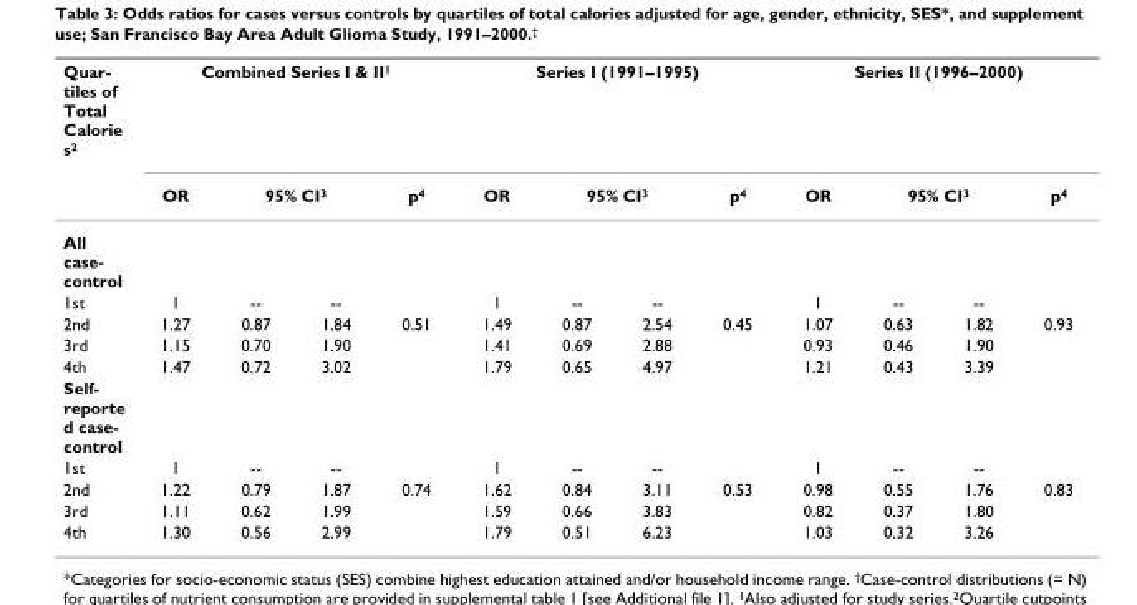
<table><thead><tr><td rowspan="3">Quar- tiles of Total Calorie s2 All case- control</td><td colspan="4">Combined Series I &amp; II1</td><td colspan="4">Series I (1991–1995)</td><td colspan="4">Series II (1996–2000)</td></tr><tr><td rowspan="2">OR</td><td colspan="2">95% CI3</td><td rowspan="2">p4</td><td rowspan="2">OR</td><td colspan="2">95% CI3</td><td rowspan="2">p4</td><td rowspan="2">OR</td><td colspan="2">95% CI3</td><td rowspan="2">p4</td></tr><tr><td></td><td></td><td></td><td></td><td></td><td></td></tr></thead><tbody><tr><td>1st</td><td>1</td><td>--</td><td>--</td><td></td><td>1</td><td>--</td><td>--</td><td></td><td>1</td><td>--</td><td>--</td><td></td></tr><tr><td>2nd</td><td>1.27</td><td>0.87</td><td>1.84</td><td>0.51</td><td>1.49</td><td>0.87</td><td>2.54</td><td>0.45</td><td>1.07</td><td>0.63</td><td>1.82</td><td>0.93</td></tr><tr><td>3rd</td><td>1.15</td><td>0.70</td><td>1.90</td><td></td><td>1.41</td><td>0.69</td><td>2.88</td><td></td><td>0.93</td><td>0.46</td><td>1.90</td><td></td></tr><tr><td>4th</td><td>1.47</td><td>0.72</td><td>3.02</td><td></td><td>1.79</td><td>0.65</td><td>4.97</td><td></td><td>1.21</td><td>0.43</td><td>3.39</td><td></td></tr><tr><td colspan="13">Self- reporte d case- control</td></tr><tr><td>1st</td><td>1</td><td>--</td><td>--</td><td></td><td>1</td><td>--</td><td>--</td><td></td><td>1</td><td>--</td><td>--</td><td></td></tr><tr><td>2nd</td><td>1.22</td><td>0.79</td><td>1.87</td><td>0.74</td><td>1.62</td><td>0.84</td><td>3.11</td><td>0.53</td><td>0.98</td><td>0.55</td><td>1.76</td><td>0.83</td></tr><tr><td>3rd</td><td>1.11</td><td>0.62</td><td>1.99</td><td></td><td>1.59</td><td>0.66</td><td>3.83</td><td></td><td>0.82</td><td>0.37</td><td>1.80</td><td></td></tr><tr><td>4th</td><td>1.30</td><td>0.56</td><td>2.99</td><td></td><td>1.79</td><td>0.51</td><td>6.23</td><td></td><td>1.03</td><td>0.32</td><td>3.26</td><td></td></tr></tbody></table>